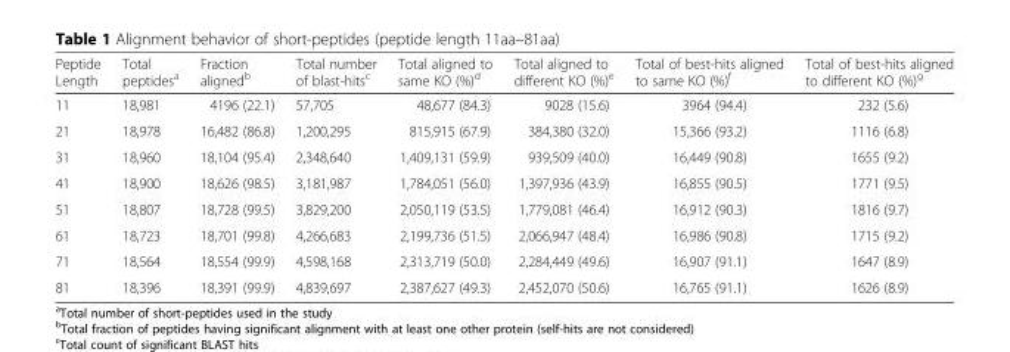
<table><thead><tr><td>Peptide Length</td><td>Total peptides<sup>a</sup></td><td>Fraction aligned<sup>b</sup></td><td>Total number of blast-hits<sup>c</sup></td><td>Total aligned to same KO (%)<sup>d</sup></td><td>Total aligned to different KO (%)<sup>e</sup></td><td>Total of best-hits aligned to same KO (%)<sup>f</sup></td><td>Total of best-hits aligned to different KO (%)<sup>g</sup></td></tr></thead><tbody><tr><td>11</td><td>18,981</td><td>4196 (22.1)</td><td>57,705</td><td>48,677 (84.3)</td><td>9028 (15.6)</td><td>3964 (94.4)</td><td>232 (5.6)</td></tr><tr><td>21</td><td>18,978</td><td>16,482 (86.8)</td><td>1,200,295</td><td>815,915 (67.9)</td><td>384,380 (32.0)</td><td>15,366 (93.2)</td><td>1116 (6.8)</td></tr><tr><td>31</td><td>18,960</td><td>18,104 (95.4)</td><td>2,348,640</td><td>1,409,131 (59.9)</td><td>939,509 (40.0)</td><td>16,449 (90.8)</td><td>1655 (9.2)</td></tr><tr><td>41</td><td>18,900</td><td>18,626 (98.5)</td><td>3,181,987</td><td>1,784,051 (56.0)</td><td>1,397,936 (43.9)</td><td>16,855 (90.5)</td><td>1771 (9.5)</td></tr><tr><td>51</td><td>18,807</td><td>18,728 (99.5)</td><td>3,829,200</td><td>2,050,119 (53.5)</td><td>1,779,081 (46.4)</td><td>16,912 (90.3)</td><td>1816 (9.7)</td></tr><tr><td>61</td><td>18,723</td><td>18,701 (99.8)</td><td>4,266,683</td><td>2,199,736 (51.5)</td><td>2,066,947 (48.4)</td><td>16,986 (90.8)</td><td>1715 (9.2)</td></tr><tr><td>71</td><td>18,564</td><td>18,554 (99.9)</td><td>4,598,168</td><td>2,313,719 (50.0)</td><td>2,284,449 (49.6)</td><td>16,907 (91.1)</td><td>1647 (8.9)</td></tr><tr><td>81</td><td>18,396</td><td>18,391 (99.9)</td><td>4,839,697</td><td>2,387,627 (49.3)</td><td>2,452,070 (50.6)</td><td>16,765 (91.1)</td><td>1626 (8.9)</td></tr></tbody></table>